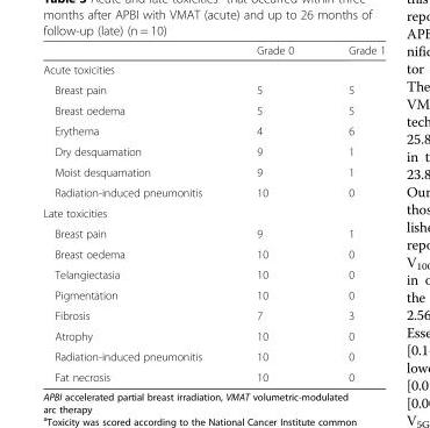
<table><thead><tr><td></td><td>Grade 0</td><td>Grade 1</td></tr></thead><tbody><tr><td colspan="3">Acute toxicities</td></tr><tr><td>Breast pain</td><td>5</td><td>5</td></tr><tr><td>Breast oedema</td><td>5</td><td>5</td></tr><tr><td>Erythema</td><td>4</td><td>6</td></tr><tr><td>Dry desquamation</td><td>9</td><td>1</td></tr><tr><td>Moist desquamation</td><td>9</td><td>1</td></tr><tr><td>Radiation-induced pneumonitis</td><td>10</td><td>0</td></tr><tr><td colspan="3">Late toxicities</td></tr><tr><td>Breast pain</td><td>9</td><td>1</td></tr><tr><td>Breast oedema</td><td>10</td><td>0</td></tr><tr><td>Telangiectasia</td><td>10</td><td>0</td></tr><tr><td>Pigmentation</td><td>10</td><td>0</td></tr><tr><td>Fibrosis</td><td>7</td><td>3</td></tr><tr><td>Atrophy</td><td>10</td><td>0</td></tr><tr><td>Radiation-induced pneumonitis</td><td>10</td><td>0</td></tr><tr><td>Fat necrosis</td><td>10</td><td>0</td></tr></tbody></table>